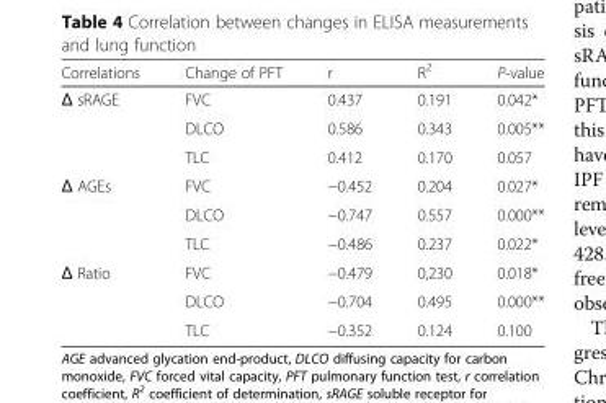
<table><thead><tr><td>Correlations</td><td>Change of PFT</td><td>r</td><td>R<sup>2</sup></td><td>P-value</td></tr></thead><tbody><tr><td rowspan="3">Δ sRAGE</td><td>FVC</td><td>0.437</td><td>0.191</td><td>0.042*</td></tr><tr><td>DLCO</td><td>0.586</td><td>0.343</td><td>0.005**</td></tr><tr><td>TLC</td><td>0.412</td><td>0.170</td><td>0.057</td></tr><tr><td rowspan="3">Δ AGEs</td><td>FVC</td><td>−0.452</td><td>0.204</td><td>0.027*</td></tr><tr><td>DLCO</td><td>−0.747</td><td>0.557</td><td>0.000**</td></tr><tr><td>TLC</td><td>−0.486</td><td>0.237</td><td>0.022*</td></tr><tr><td rowspan="3">Δ Ratio</td><td>FVC</td><td>−0.479</td><td>0,230</td><td>0.018*</td></tr><tr><td>DLCO</td><td>−0.704</td><td>0.495</td><td>0.000**</td></tr><tr><td>TLC</td><td>−0.352</td><td>0.124</td><td>0.100</td></tr></tbody></table>